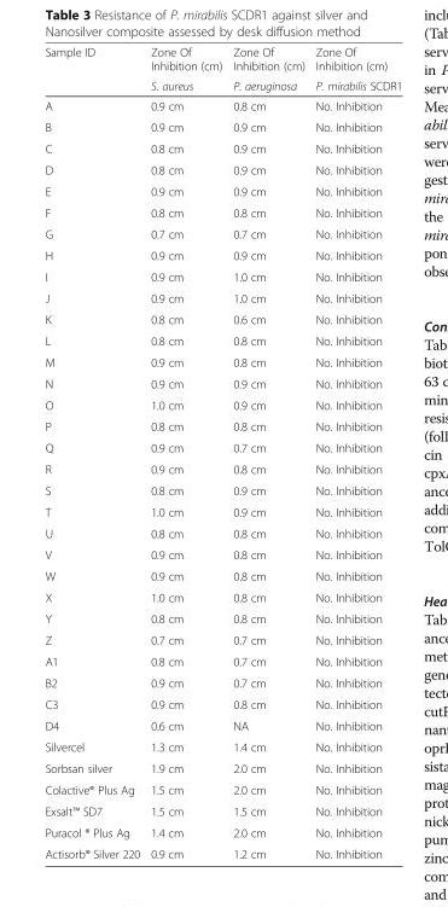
<table><thead><tr><td rowspan="2">Sample ID</td><td rowspan="2">Zone Of Inhibition (cm) S. aureus</td><td rowspan="2">Zone Of Inhibition (cm) P. aeruginosa</td><td rowspan="2">Zone Of Inhibition (cm) P. mirabilis SCDR1</td></tr><tr></tr></thead><tbody><tr><td>A</td><td>0.9 cm</td><td>0.8 cm</td><td>No. Inhibition</td></tr><tr><td>B</td><td>0.9 cm</td><td>0.9 cm</td><td>No. Inhibition</td></tr><tr><td>C</td><td>0.8 cm</td><td>0.9 cm</td><td>No. Inhibition</td></tr><tr><td>D</td><td>0.8 cm</td><td>0.9 cm</td><td>No. Inhibition</td></tr><tr><td>E</td><td>0.9 cm</td><td>0.9 cm</td><td>No. Inhibition</td></tr><tr><td>F</td><td>0.8 cm</td><td>0.8 cm</td><td>No. Inhibition</td></tr><tr><td>G</td><td>0.7 cm</td><td>0.7 cm</td><td>No. Inhibition</td></tr><tr><td>H</td><td>0.9 cm</td><td>0.9 cm</td><td>No. Inhibition</td></tr><tr><td>I</td><td>0.9 cm</td><td>1.0 cm</td><td>No. Inhibition</td></tr><tr><td>J</td><td>0.9 cm</td><td>1.0 cm</td><td>No. Inhibition</td></tr><tr><td>K</td><td>0.8 cm</td><td>0.6 cm</td><td>No. Inhibition</td></tr><tr><td>L</td><td>0.8 cm</td><td>0.8 cm</td><td>No. Inhibition</td></tr><tr><td>M</td><td>0.9 cm</td><td>0.8 cm</td><td>No. Inhibition</td></tr><tr><td>N</td><td>0.9 cm</td><td>0.9 cm</td><td>No. Inhibition</td></tr><tr><td>O</td><td>1.0 cm</td><td>0.9 cm</td><td>No. Inhibition</td></tr><tr><td>P</td><td>0.8 cm</td><td>0.8 cm</td><td>No. Inhibition</td></tr><tr><td>Q</td><td>0.9 cm</td><td>0.7 cm</td><td>No. Inhibition</td></tr><tr><td>R</td><td>0.9 cm</td><td>0.8 cm</td><td>No. Inhibition</td></tr><tr><td>S</td><td>0.8 cm</td><td>0.9 cm</td><td>No. Inhibition</td></tr><tr><td>T</td><td>1.0 cm</td><td>0.9 cm</td><td>No. Inhibition</td></tr><tr><td>U</td><td>0.8 cm</td><td>0.8 cm</td><td>No. Inhibition</td></tr><tr><td>V</td><td>0.9 cm</td><td>0.8 cm</td><td>No. Inhibition</td></tr><tr><td>W</td><td>0.9 cm</td><td>0.8 cm</td><td>No. Inhibition</td></tr><tr><td>X</td><td>1.0 cm</td><td>0.8 cm</td><td>No. Inhibition</td></tr><tr><td>Y</td><td>0.8 cm</td><td>0.8 cm</td><td>No. Inhibition</td></tr><tr><td>Z</td><td>0.7 cm</td><td>0.7 cm</td><td>No. Inhibition</td></tr><tr><td>A1</td><td>0.8 cm</td><td>0.7 cm</td><td>No. Inhibition</td></tr><tr><td>B2</td><td>0.9 cm</td><td>0.7 cm</td><td>No. Inhibition</td></tr><tr><td>C3</td><td>0.9 cm</td><td>0.8 cm</td><td>No. Inhibition</td></tr><tr><td>D4</td><td>0.6 cm</td><td>NA</td><td>No. Inhibition</td></tr><tr><td>Silvercel</td><td>1.3 cm</td><td>1.4 cm</td><td>No. Inhibition</td></tr><tr><td>Sorbsan silver</td><td>1.9 cm</td><td>2.0 cm</td><td>No. Inhibition</td></tr><tr><td>Colactive® Plus Ag</td><td>1.5 cm</td><td>2.0 cm</td><td>No. Inhibition</td></tr><tr><td>Exsalt™ SD7</td><td>1.5 cm</td><td>1.5 cm</td><td>No. Inhibition</td></tr><tr><td>Puracol ® Plus Ag</td><td>1.4 cm</td><td>2.0 cm</td><td>No. Inhibition</td></tr><tr><td>Actisorb® Silver 220</td><td>0.9 cm</td><td>1.2 cm</td><td>No. Inhibition</td></tr></tbody></table>